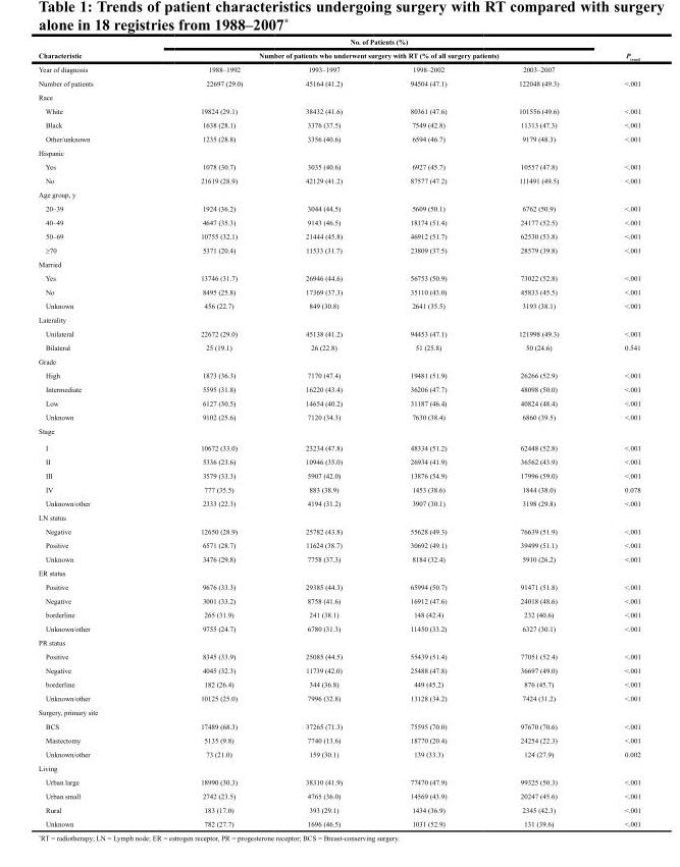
<table><thead><tr><td rowspan="3">Characteristic Year of diagnosis</td><td rowspan="2" colspan="4">No. of Patients (%) Number of patients who underwent surgery with RT (% of all surgery patients)</td><td rowspan="3">P<sub>trend</sub></td></tr><tr></tr><tr><td>1988–1992</td><td>1993–1997</td><td>1998–2002</td><td>2003–2007</td></tr></thead><tbody><tr><td>Number of patients</td><td>22697 (29.0)</td><td>45164 (41.2)</td><td>94504 (47.1)</td><td>122048 (49.3)</td><td>&lt;.001</td></tr><tr><td colspan="6">Race</td></tr><tr><td>White</td><td>19824 (29.1)</td><td>38432 (41.6)</td><td>80361 (47.6)</td><td>101556 (49.6)</td><td>&lt;.001</td></tr><tr><td>Black</td><td>1638 (28.1)</td><td>3376 (37.5)</td><td>7549 (42.8)</td><td>11313 (47.3)</td><td>&lt;.001</td></tr><tr><td>Other/unknown</td><td>1235 (28.8)</td><td>3356 (40.6)</td><td>6594 (46.7)</td><td>9179 (48.3)</td><td>&lt;.001</td></tr><tr><td colspan="6">Hispanic</td></tr><tr><td>Yes</td><td>1078 (30.7)</td><td>3035 (40.6)</td><td>6927 (45.7)</td><td>10557 (47.8)</td><td>&lt;.001</td></tr><tr><td>No</td><td>21619 (28.9)</td><td>42129 (41.2)</td><td>87577 (47.2)</td><td>111491 (49.5)</td><td>&lt;.001</td></tr><tr><td colspan="6">Age group, y</td></tr><tr><td>20–39</td><td>1924 (36.2)</td><td>3044 (44.5)</td><td>5609 (50.1)</td><td>6762 (50.9)</td><td>&lt;.001</td></tr><tr><td>40–49</td><td>4647 (35.3)</td><td>9143 (46.5)</td><td>18174 (51.4)</td><td>24177 (52.5)</td><td>&lt;.001</td></tr><tr><td>50–69</td><td>10755 (32.1)</td><td>21444 (45.8)</td><td>46912 (51.7)</td><td>62530 (53.8)</td><td>&lt;.001</td></tr><tr><td>≥70</td><td>5371 (20.4)</td><td>11533 (31.7)</td><td>23809 (37.5)</td><td>28579 (39.8)</td><td>&lt;.001</td></tr><tr><td colspan="6">Married</td></tr><tr><td>Yes</td><td>13746 (31.7)</td><td>26946 (44.6)</td><td>56753 (50.9)</td><td>73022 (52.8)</td><td>&lt;.001</td></tr><tr><td>No</td><td>8495 (25.8)</td><td>17369 (37.3)</td><td>35110 (43.0)</td><td>45833 (45.5)</td><td>&lt;.001</td></tr><tr><td>Unknown</td><td>456 (22.7)</td><td>849 (30.8)</td><td>2641 (35.5)</td><td>3193 (38.1)</td><td>&lt;.001</td></tr><tr><td colspan="6">Laterality</td></tr><tr><td>Unilateral</td><td>22672 (29.0)</td><td>45138 (41.2)</td><td>94453 (47.1)</td><td>121998 (49.3)</td><td>&lt;.001</td></tr><tr><td>Bilateral</td><td>25 (19.1)</td><td>26 (22.8)</td><td>51 (25.8)</td><td>50 (24.6)</td><td>0.541</td></tr><tr><td colspan="6">Grade</td></tr><tr><td>High</td><td>1873 (36.3)</td><td>7170 (47.4)</td><td>19481 (51.9)</td><td>26266 (52.9)</td><td>&lt;.001</td></tr><tr><td>Intermediate</td><td>5595 (31.8)</td><td>16220 (43.4)</td><td>36206 (47.7)</td><td>48098 (50.0)</td><td>&lt;.001</td></tr><tr><td>Low</td><td>6127 (30.5)</td><td>14654 (40.2)</td><td>31187 (46.4)</td><td>40824 (48.4)</td><td>&lt;.001</td></tr><tr><td>Unknown</td><td>9102 (25.6)</td><td>7120 (34.3)</td><td>7630 (38.4)</td><td>6860 (39.5)</td><td>&lt;.001</td></tr><tr><td colspan="6">Stage</td></tr><tr><td>I</td><td>10672 (33.0)</td><td>23234 (47.8)</td><td>48334 (51.2)</td><td>62448 (52.8)</td><td>&lt;.001</td></tr><tr><td>II</td><td>5336 (23.6)</td><td>10946 (35.0)</td><td>26934 (41.9)</td><td>36562 (43.9)</td><td>&lt;.001</td></tr><tr><td>III</td><td>3579 (33.3)</td><td>5907 (42.0)</td><td>13876 (54.9)</td><td>17996 (59.0)</td><td>&lt;.001</td></tr><tr><td>IV</td><td>777 (35.5)</td><td>883 (38.9)</td><td>1453 (38.6)</td><td>1844 (38.0)</td><td>0.078</td></tr><tr><td>Unknown/other</td><td>2333 (22.3)</td><td>4194 (31.2)</td><td>3907 (30.1)</td><td>3198 (29.8)</td><td>&lt;.001</td></tr><tr><td colspan="6">LN status</td></tr><tr><td>Negative</td><td>12650 (28.9)</td><td>25782 (43.8)</td><td>55628 (49.3)</td><td>76639 (51.9)</td><td>&lt;.001</td></tr><tr><td>Positive</td><td>6571 (28.7)</td><td>11624 (38.7)</td><td>30692 (49.1)</td><td>39499 (51.1)</td><td>&lt;.001</td></tr><tr><td>Unknown</td><td>3476 (29.8)</td><td>7758 (37.3)</td><td>8184 (32.4)</td><td>5910 (26.2)</td><td>&lt;.001</td></tr><tr><td colspan="6">ER status</td></tr><tr><td>Positive</td><td>9676 (33.3)</td><td>29385 (44.3)</td><td>65994 (50.7)</td><td>91471 (51.8)</td><td>&lt;.001</td></tr><tr><td>Negative</td><td>3001 (33.2)</td><td>8758 (41.6)</td><td>16912 (47.6)</td><td>24018 (48.6)</td><td>&lt;.001</td></tr><tr><td>borderline</td><td>265 (31.9)</td><td>241 (38.1)</td><td>148 (42.4)</td><td>232 (40.6)</td><td>&lt;.001</td></tr><tr><td>Unknown/other</td><td>9755 (24.7)</td><td>6780 (31.3)</td><td>11450 (33.2)</td><td>6327 (30.1)</td><td>&lt;.001</td></tr><tr><td colspan="6">PR status</td></tr><tr><td>Positive</td><td>8345 (33.9)</td><td>25085 (44.5)</td><td>55439 (51.4)</td><td>77051 (52.4)</td><td>&lt;.001</td></tr><tr><td>Negative</td><td>4045 (32.3)</td><td>11739 (42.0)</td><td>25488 (47.8)</td><td>36697 (49.0)</td><td>&lt;.001</td></tr><tr><td>borderline</td><td>182 (26.4)</td><td>344 (36.8)</td><td>449 (45.2)</td><td>876 (45.7)</td><td>&lt;.001</td></tr><tr><td>Unknown/other</td><td>10125 (25.0)</td><td>7996 (32.8)</td><td>13128 (34.2)</td><td>7424 (31.2)</td><td>&lt;.001</td></tr><tr><td colspan="6">Surgery, primary site</td></tr><tr><td>BCS</td><td>17489 (68.3)</td><td>37265 (71.3)</td><td>75595 (70.0)</td><td>97670 (70.6)</td><td>&lt;.001</td></tr><tr><td>Mastectomy</td><td>5135 (9.8)</td><td>7740 (13.6)</td><td>18770 (20.4)</td><td>24254 (22.3)</td><td>&lt;.001</td></tr><tr><td>Unknown/other</td><td>73 (21.0)</td><td>159 (30.1)</td><td>139 (33.3)</td><td>124 (27.9)</td><td>0.002</td></tr><tr><td colspan="6">Living</td></tr><tr><td>Urban large</td><td>18990 (30.3)</td><td>38310 (41.9)</td><td>77470 (47.9)</td><td>99325 (50.3)</td><td>&lt;.001</td></tr><tr><td>Urban small</td><td>2742 (23.5)</td><td>4765 (36.0)</td><td>14569 (43.9)</td><td>20247 (45.6)</td><td>&lt;.001</td></tr><tr><td>Rural</td><td>183 (17.0)</td><td>393 (29.1)</td><td>1434 (36.9)</td><td>2345 (42.3)</td><td>&lt;.001</td></tr><tr><td>Unknown</td><td>782 (27.7)</td><td>1696 (46.5)</td><td>1031 (52.9)</td><td>131 (39.6)</td><td>&lt;.001</td></tr></tbody></table>